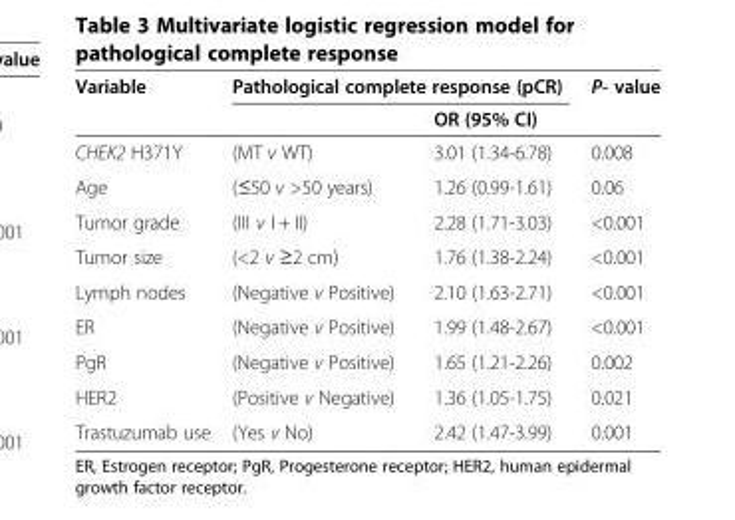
<table><thead><tr><td rowspan="2">Variable</td><td colspan="2">Pathological complete response (pCR)</td><td rowspan="2">P- value</td></tr><tr><td></td><td>OR (95% CI)</td></tr></thead><tbody><tr><td>CHEK2 H371Y</td><td>(MT v WT)</td><td>3.01 (1.34-6.78)</td><td>0.008</td></tr><tr><td>Age</td><td>(≤50 v &gt;50 years)</td><td>1.26 (0.99-1.61)</td><td>0.06</td></tr><tr><td>Tumor grade</td><td>(III v I + II)</td><td>2.28 (1.71-3.03)</td><td>&lt;0.001</td></tr><tr><td>Tumor size</td><td>(&lt;2 v ≥2 cm)</td><td>1.76 (1.38-2.24)</td><td>&lt;0.001</td></tr><tr><td>Lymph nodes</td><td>(Negative v Positive)</td><td>2.10 (1.63-2.71)</td><td>&lt;0.001</td></tr><tr><td>ER</td><td>(Negative v Positive)</td><td>1.99 (1.48-2.67)</td><td>&lt;0.001</td></tr><tr><td>PgR</td><td>(Negative v Positive)</td><td>1.65 (1.21-2.26)</td><td>0.002</td></tr><tr><td>HER2</td><td>(Positive v Negative)</td><td>1.36 (1.05-1.75)</td><td>0.021</td></tr><tr><td>Trastuzumab use</td><td>(Yes v No)</td><td>2.42 (1.47-3.99)</td><td>0.001</td></tr></tbody></table>